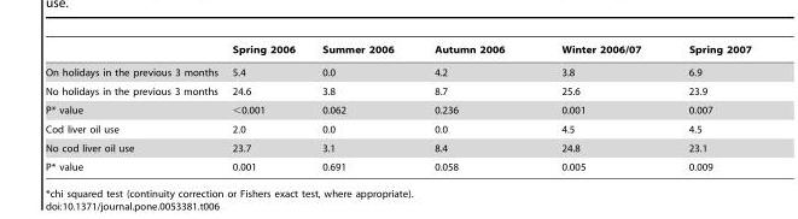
<table><thead><tr><td></td><td>Spring 2006</td><td>Summer 2006</td><td>Autumn 2006</td><td>Winter 2006/07</td><td>Spring 2007</td></tr></thead><tbody><tr><td>On holidays in the previous 3 months</td><td>5.4</td><td>0.0</td><td>4.2</td><td>3.8</td><td>6.9</td></tr><tr><td>No holidays in the previous 3 months</td><td>24.6</td><td>3.8</td><td>8.7</td><td>25.6</td><td>23.9</td></tr><tr><td>P* value</td><td>&lt;0.001</td><td>0.062</td><td>0.236</td><td>0.001</td><td>0.007</td></tr><tr><td>Cod liver oil use</td><td>2.0</td><td>0.0</td><td>0.0</td><td>4.5</td><td>4.5</td></tr><tr><td>No cod liver oil use</td><td>23.7</td><td>3.1</td><td>8.4</td><td>24.8</td><td>23.1</td></tr><tr><td>P* value</td><td>0.001</td><td>0.691</td><td>0.058</td><td>0.005</td><td>0.009</td></tr></tbody></table>